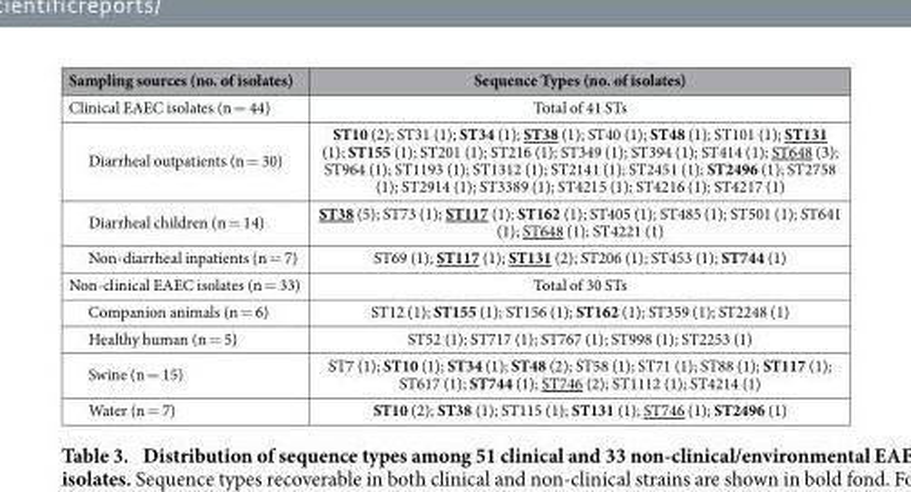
<table><thead><tr><td>Sampling sources (no. of isolates)</td><td>Sequence Types (no. of isolates)</td></tr></thead><tbody><tr><td>Clinical EAEC isolates (n = 44)</td><td>Total of 41 STs</td></tr><tr><td>Diarrheal outpatients (n = 30)</td><td>ST10 (2); ST31 (1); ST34 (1); ST38 (1); ST40 (1); ST48 (1); ST101 (1); ST131 (1); ST155 (1); ST201 (1); ST216 (1); ST349 (1); ST394 (1); ST414 (1); ST648 (3); ST964 (1); ST1193 (1); ST1312 (1); ST2141 (1); ST2451 (1); ST2496 (1); ST2758 (1); ST2914 (1); ST3389 (1); ST4215 (1); ST4216 (1); ST4217 (1)</td></tr><tr><td>Diarrheal children (n = 14)</td><td>ST38 (5); ST73 (1); ST117 (1); ST162 (1); ST405 (1); ST485 (1); ST501 (1); ST641 (1); ST648 (1); ST4221 (1)</td></tr><tr><td>Non-diarrheal inpatients (n = 7)</td><td>ST69 (1); ST117 (1); ST131 (2); ST206 (1); ST453 (1); ST744 (1)</td></tr><tr><td>Non-clinical EAEC isolates (n = 33)</td><td>Total of 30 STs</td></tr><tr><td>Companion animals (n = 6)</td><td>ST12 (1); ST155 (1); ST156 (1); ST162 (1); ST359 (1); ST2248 (1)</td></tr><tr><td>Healthy human (n = 5)</td><td>ST52 (1); ST717 (1); ST767 (1); ST998 (1); ST2253 (1)</td></tr><tr><td>Swine (n = 15)</td><td>ST7 (1); ST10 (1); ST34 (1); ST48 (2); ST58 (1); ST71 (1); ST88 (1); ST117 (1); ST617 (1); ST744 (1); ST746 (2); ST1112 (1); ST4214 (1)</td></tr><tr><td>Water (n = 7)</td><td>ST10 (2); ST38 (1); ST115 (1); ST131 (1); ST746 (1); ST2496 (1)</td></tr></tbody></table>